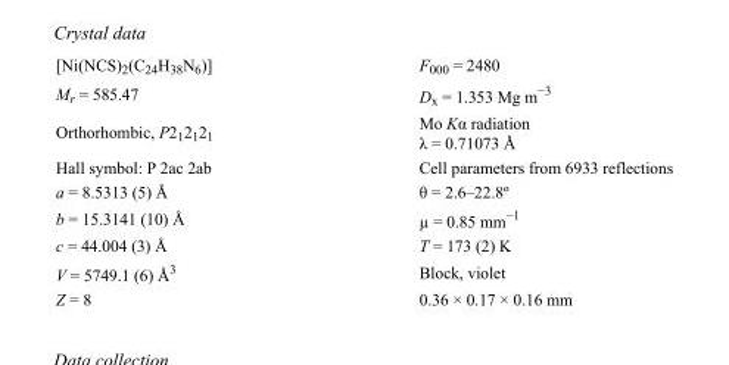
<table><tbody><tr><td>[Ni(NCS)<sub>2</sub>(C<sub>24</sub>H<sub>38</sub>N<sub>6</sub>)]</td><td>F000 = 2480</td></tr><tr><td>M<sub>r</sub> = 585.47</td><td>D<sub>x</sub> = 1.353 Mg m<sup>−3</sup></td></tr><tr><td>Orthorhombic, P2<sub>1</sub>2<sub>1</sub>2<sub>1</sub></td><td>Mo Kα radiation λ = 0.71073 Å</td></tr><tr><td>Hall symbol: P 2ac 2ab</td><td>Cell parameters from 6933 reflections</td></tr><tr><td>a = 8.5313 (5) Å</td><td>θ = 2.6–22.8º</td></tr><tr><td>b = 15.3141 (10) Å</td><td>µ = 0.85 mm<sup>−1</sup></td></tr><tr><td>c = 44.004 (3) Å</td><td>T = 173 (2) K</td></tr><tr><td>V = 5749.1 (6) Å<sup>3</sup></td><td>Block, violet</td></tr><tr><td>Z = 8</td><td>0.36 × 0.17 × 0.16 mm</td></tr></tbody></table>